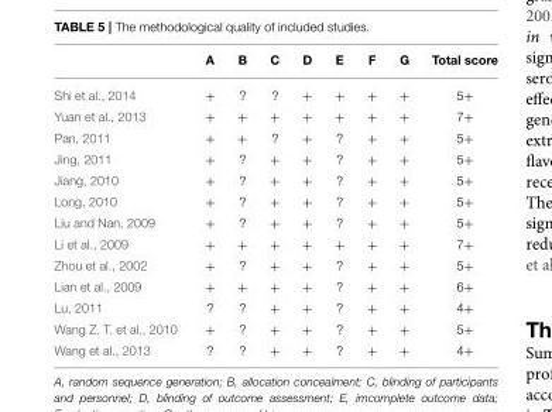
<table><thead><tr><td></td><td>A</td><td>B</td><td>C</td><td>D</td><td>E</td><td>F</td><td>G</td><td>Total score</td></tr></thead><tbody><tr><td>Shi et al., 2014</td><td>+</td><td>?</td><td>?</td><td>+</td><td>+</td><td>+</td><td>+</td><td>5+</td></tr><tr><td>Yuan et al., 2013</td><td>+</td><td>+</td><td>+</td><td>+</td><td>+</td><td>+</td><td>+</td><td>7+</td></tr><tr><td>Pan, 2011</td><td>+</td><td>+</td><td>?</td><td>+</td><td>?</td><td>+</td><td>+</td><td>5+</td></tr><tr><td>Jing, 2011</td><td>+</td><td>?</td><td>+</td><td>+</td><td>?</td><td>+</td><td>+</td><td>5+</td></tr><tr><td>Jiang, 2010</td><td>+</td><td>?</td><td>+</td><td>+</td><td>?</td><td>+</td><td>+</td><td>5+</td></tr><tr><td>Long, 2010</td><td>+</td><td>?</td><td>+</td><td>+</td><td>?</td><td>+</td><td>+</td><td>5+</td></tr><tr><td>Liu and Nan, 2009</td><td>+</td><td>?</td><td>+</td><td>+</td><td>?</td><td>+</td><td>+</td><td>5+</td></tr><tr><td>Li et al., 2009</td><td>+</td><td>+</td><td>+</td><td>+</td><td>+</td><td>+</td><td>+</td><td>7+</td></tr><tr><td>Zhou et al., 2002</td><td>+</td><td>?</td><td>+</td><td>+</td><td>?</td><td>+</td><td>+</td><td>5+</td></tr><tr><td>Lian et al., 2009</td><td>+</td><td>+</td><td>+</td><td>+</td><td>?</td><td>+</td><td>+</td><td>6+</td></tr><tr><td>Lu, 2011</td><td>?</td><td>?</td><td>+</td><td>+</td><td>?</td><td>+</td><td>+</td><td>4+</td></tr><tr><td>Wang Z. T. et al., 2010</td><td>+</td><td>?</td><td>+</td><td>+</td><td>?</td><td>+</td><td>+</td><td>5+</td></tr><tr><td>Wang et al., 2013</td><td>?</td><td>?</td><td>+</td><td>+</td><td>?</td><td>+</td><td>+</td><td>4+</td></tr></tbody></table>